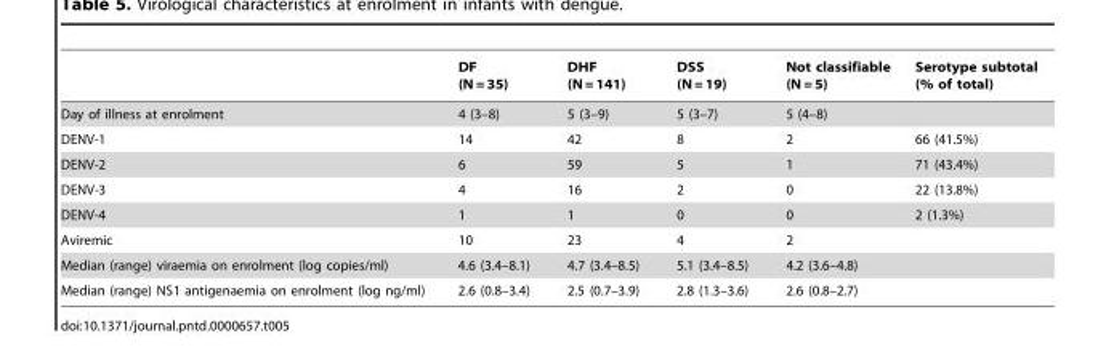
<table><thead><tr><td></td><td>DF (N = 35)</td><td>DHF (N = 141)</td><td>DSS (N = 19)</td><td>Not classifiable (N = 5)</td><td>Serotype subtotal (% of total)</td></tr></thead><tbody><tr><td>Day of illness at enrolment</td><td>4 (3–8)</td><td>5 (3–9)</td><td>5 (3–7)</td><td>5 (4–8)</td><td></td></tr><tr><td>DENV-1</td><td>14</td><td>42</td><td>8</td><td>2</td><td>66 (41.5%)</td></tr><tr><td>DENV-2</td><td>6</td><td>59</td><td>5</td><td>1</td><td>71 (43.4%)</td></tr><tr><td>DENV-3</td><td>4</td><td>16</td><td>2</td><td>0</td><td>22 (13.8%)</td></tr><tr><td>DENV-4</td><td>1</td><td>1</td><td>0</td><td>0</td><td>2 (1.3%)</td></tr><tr><td>Aviremic</td><td>10</td><td>23</td><td>4</td><td>2</td><td></td></tr><tr><td>Median (range) viraemia on enrolment (log copies/ml)</td><td>4.6 (3.4–8.1)</td><td>4.7 (3.4–8.5)</td><td>5.1 (3.4–8.5)</td><td>4.2 (3.6–4.8)</td><td></td></tr><tr><td>Median (range) NS1 antigenaemia on enrolment (log ng/ml)</td><td>2.6 (0.8–3.4)</td><td>2.5 (0.7–3.9)</td><td>2.8 (1.3–3.6)</td><td>2.6 (0.8–2.7)</td><td></td></tr></tbody></table>